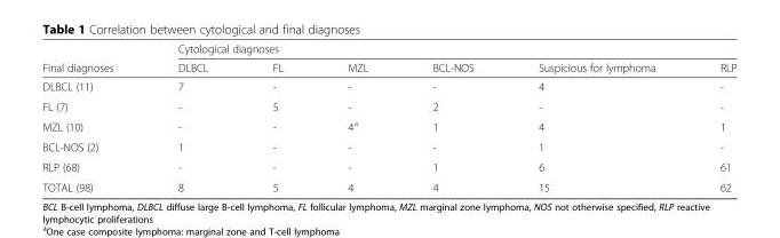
<table><thead><tr><td rowspan="2">Final diagnoses</td><td colspan="6">Cytological diagnoses</td></tr><tr><td>DLBCL</td><td>FL</td><td>MZL</td><td>BCL-NOS</td><td>Suspicious for lymphoma</td><td>RLP</td></tr></thead><tbody><tr><td>DLBCL (11)</td><td>7</td><td>-</td><td>-</td><td>-</td><td>4</td><td>-</td></tr><tr><td>FL (7)</td><td>-</td><td>5</td><td>-</td><td>2</td><td>-</td><td>-</td></tr><tr><td>MZL (10)</td><td>-</td><td>-</td><td>4<sup>a</sup></td><td>1</td><td>4</td><td>1</td></tr><tr><td>BCL-NOS (2)</td><td>1</td><td>-</td><td>-</td><td>-</td><td>1</td><td>-</td></tr><tr><td>RLP (68)</td><td>-</td><td>-</td><td>-</td><td>1</td><td>6</td><td>61</td></tr><tr><td>TOTAL (98)</td><td>8</td><td>5</td><td>4</td><td>4</td><td>15</td><td>62</td></tr></tbody></table>